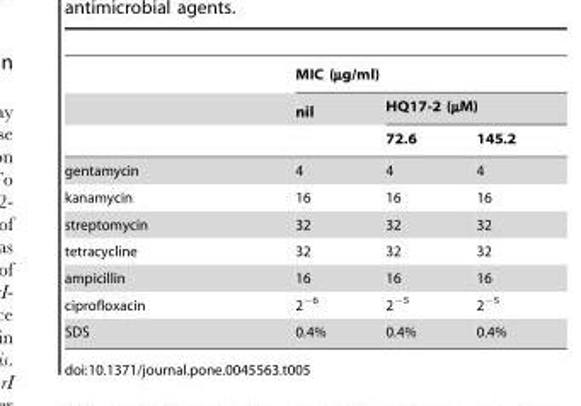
<table><thead><tr><td rowspan="3"></td><td colspan="3">MIC (µg/ml)</td></tr><tr><td rowspan="2">nil</td><td colspan="2">HQ17-2 (µM)</td></tr><tr><td>72.6</td><td>145.2</td></tr></thead><tbody><tr><td>gentamycin</td><td>4</td><td>4</td><td>4</td></tr><tr><td>kanamycin</td><td>16</td><td>16</td><td>16</td></tr><tr><td>streptomycin</td><td>32</td><td>32</td><td>32</td></tr><tr><td>tetracycline</td><td>32</td><td>32</td><td>32</td></tr><tr><td>ampicillin</td><td>16</td><td>16</td><td>16</td></tr><tr><td>ciprofloxacin</td><td>2<sup>−6</sup></td><td>2<sup>−5</sup></td><td>2<sup>−5</sup></td></tr><tr><td>SDS</td><td>0.4%</td><td>0.4%</td><td>0.4%</td></tr></tbody></table>